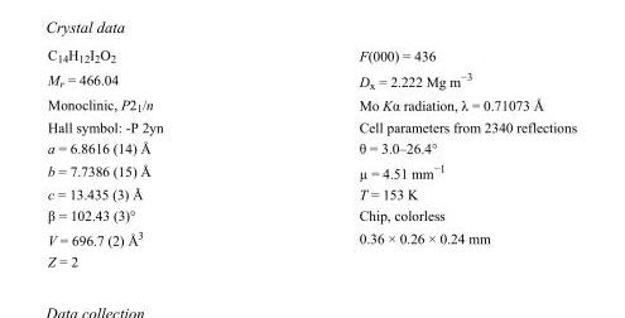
<table><tbody><tr><td>C<sub>14</sub>H<sub>12</sub>I<sub>2</sub>O<sub>2</sub></td><td>F(000) = 436</td></tr><tr><td>M<sub>r</sub> = 466.04</td><td>D<sub>x</sub> = 2.222 Mg m<sup>−3</sup></td></tr><tr><td>Monoclinic, P2<sub>1</sub>/n</td><td>Mo Kα radiation, λ = 0.71073 Å</td></tr><tr><td>Hall symbol: -P 2yn</td><td>Cell parameters from 2340 reflections</td></tr><tr><td>a = 6.8616 (14) Å</td><td>θ = 3.0–26.4°</td></tr><tr><td>b = 7.7386 (15) Å</td><td>µ = 4.51 mm<sup>−1</sup></td></tr><tr><td>c = 13.435 (3) Å</td><td>T = 153 K</td></tr><tr><td>β = 102.43 (3)°</td><td>Chip, colorless</td></tr><tr><td>V = 696.7 (2) Å<sup>3</sup></td><td>0.36 × 0.26 × 0.24 mm</td></tr><tr><td>Z = 2</td><td></td></tr></tbody></table>